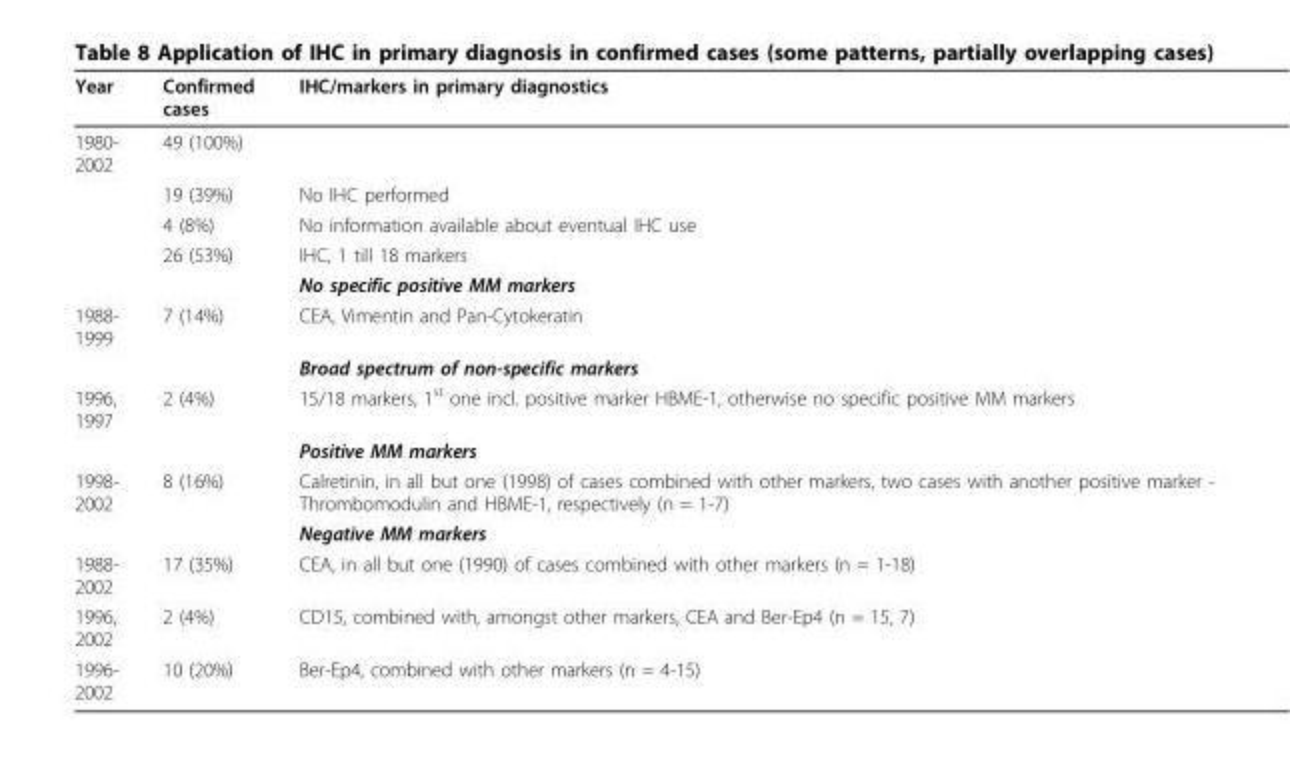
<table><thead><tr><td>Year</td><td>Confirmed cases</td><td>IHC/markers in primary diagnostics</td></tr></thead><tbody><tr><td rowspan="5">1980- 2002</td><td>49 (100%)</td><td></td></tr><tr><td>19 (39%)</td><td>No IHC performed</td></tr><tr><td>4 (8%)</td><td>No information available about eventual IHC use</td></tr><tr><td>26 (53%)</td><td>IHC, 1 till 18 markers</td></tr><tr><td></td><td>No specific positive MM markers</td></tr><tr><td rowspan="2">1988- 1999</td><td>7 (14%)</td><td>CEA, Vimentin and Pan-Cytokeratin</td></tr><tr><td></td><td>Broad spectrum of non-specific markers</td></tr><tr><td rowspan="2">1996, 1997</td><td>2 (4%)</td><td>15/18 markers, 1<sup>st</sup> one incl. positive marker HBME-1, otherwise no specific positive MM markers</td></tr><tr><td></td><td>Positive MM markers</td></tr><tr><td rowspan="2">1998- 2002</td><td>8 (16%)</td><td>Calretinin, in all but one (1998) of cases combined with other markers, two cases with another positive marker - Thrombomodulin and HBME-1, respectively (n = 1-7)</td></tr><tr><td></td><td>Negative MM markers</td></tr><tr><td>1988- 2002</td><td>17 (35%)</td><td>CEA, in all but one (1990) of cases combined with other markers (n = 1-18)</td></tr><tr><td>1996, 2002</td><td>2 (4%)</td><td>CD15, combined with, amongst other markers, CEA and Ber-Ep4 (n = 15, 7)</td></tr><tr><td>1996- 2002</td><td>10 (20%)</td><td>Ber-Ep4, combined with other markers (n = 4-15)</td></tr></tbody></table>